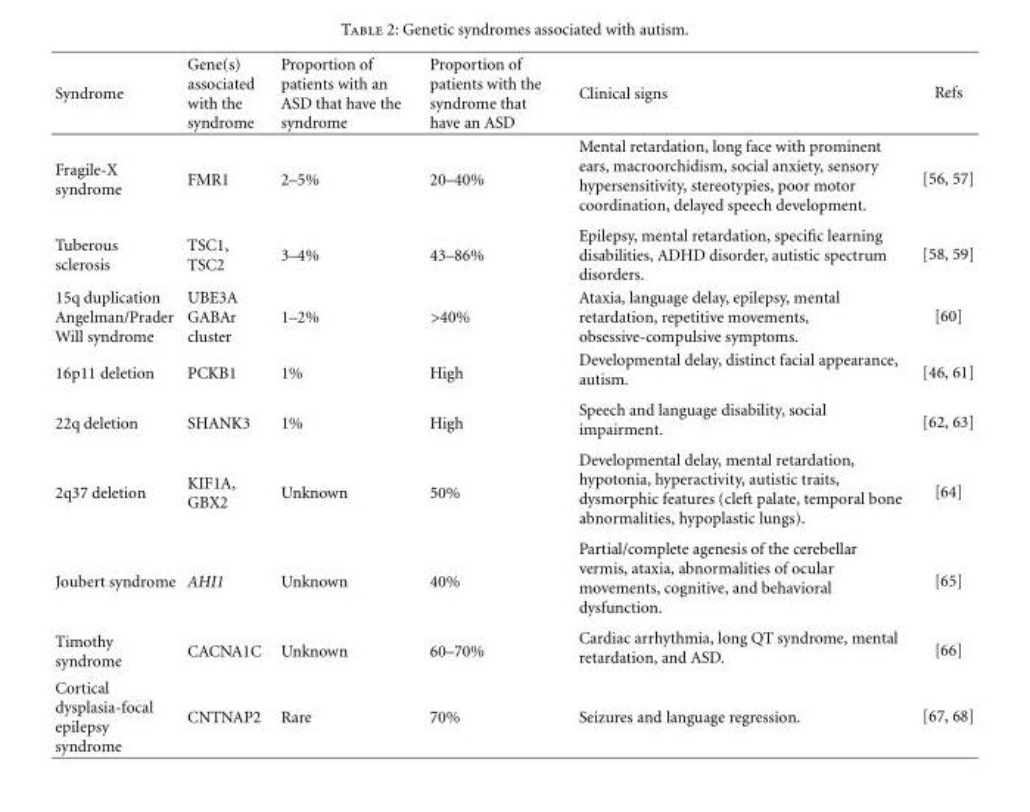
<table><thead><tr><td>Syndrome</td><td>Gene(s) associated with the syndrome</td><td>Proportion of patients with an ASD that have the syndrome</td><td>Proportion of patients with the syndrome that have an ASD</td><td>Clinical signs</td><td>Refs</td></tr></thead><tbody><tr><td>Fragile-X syndrome</td><td>FMR1</td><td>2–5%</td><td>20–40%</td><td>Mental retardation, long face with prominent ears, macroorchidism, social anxiety, sensory hypersensitivity, stereotypies, poor motor coordination, delayed speech development.</td><td>[56, 57]</td></tr><tr><td>Tuberous sclerosis</td><td>TSC1, TSC2</td><td>3–4%</td><td>43–86%</td><td>Epilepsy, mental retardation, specific learning disabilities, ADHD disorder, autistic spectrum disorders.</td><td>[58, 59]</td></tr><tr><td>15q duplication Angelman/Prader Will syndrome</td><td>UBE3A GABAr cluster</td><td>1–2%</td><td>&gt;40%</td><td>Ataxia, language delay, epilepsy, mental retardation, repetitive movements, obsessive-compulsive symptoms.</td><td>[60]</td></tr><tr><td>16p11 deletion</td><td>PCKB1</td><td>1%</td><td>High</td><td>Developmental delay, distinct facial appearance, autism.</td><td>[46, 61]</td></tr><tr><td>22q deletion</td><td>SHANK3</td><td>1%</td><td>High</td><td>Speech and language disability, social impairment.</td><td>[62, 63]</td></tr><tr><td>2q37 deletion</td><td>KIF1A, GBX2</td><td>Unknown</td><td>50%</td><td>Developmental delay, mental retardation, hypotonia, hyperactivity, autistic traits, dysmorphic features (cleft palate, temporal bone abnormalities, hypoplastic lungs).</td><td>[64]</td></tr><tr><td>Joubert syndrome</td><td>AHI1</td><td>Unknown</td><td>40%</td><td>Partial/complete agenesis of the cerebellar vermis, ataxia, abnormalities of ocular movements, cognitive, and behavioral dysfunction.</td><td>[65]</td></tr><tr><td>Timothy syndrome</td><td>CACNA1C</td><td>Unknown</td><td>60–70%</td><td>Cardiac arrhythmia, long QT syndrome, mental retardation, and ASD.</td><td>[66]</td></tr><tr><td>Cortical dysplasia-focal epilepsy syndrome</td><td>CNTNAP2</td><td>Rare</td><td>70%</td><td>Seizures and language regression.</td><td>[67, 68]</td></tr></tbody></table>